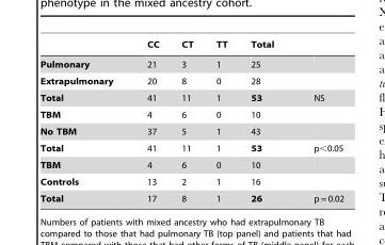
<table><thead><tr><td></td><td>CC</td><td>CT</td><td>TT</td><td>Total</td><td></td></tr></thead><tbody><tr><td>Pulmonary</td><td>21</td><td>3</td><td>1</td><td>25</td><td></td></tr><tr><td>Extrapulmonary</td><td>20</td><td>8</td><td>0</td><td>28</td><td></td></tr><tr><td>Total</td><td>41</td><td>11</td><td>1</td><td>53</td><td>NS</td></tr><tr><td>TBM</td><td>4</td><td>6</td><td>0</td><td>10</td><td></td></tr><tr><td>No TBM</td><td>37</td><td>5</td><td>1</td><td>43</td><td></td></tr><tr><td>Total</td><td>41</td><td>11</td><td>1</td><td>53</td><td>p&lt;0.05</td></tr><tr><td>TBM</td><td>4</td><td>6</td><td>0</td><td>10</td><td></td></tr><tr><td>Controls</td><td>13</td><td>2</td><td>1</td><td>16</td><td></td></tr><tr><td>Total</td><td>17</td><td>8</td><td>1</td><td>26</td><td>p = 0.02</td></tr></tbody></table>